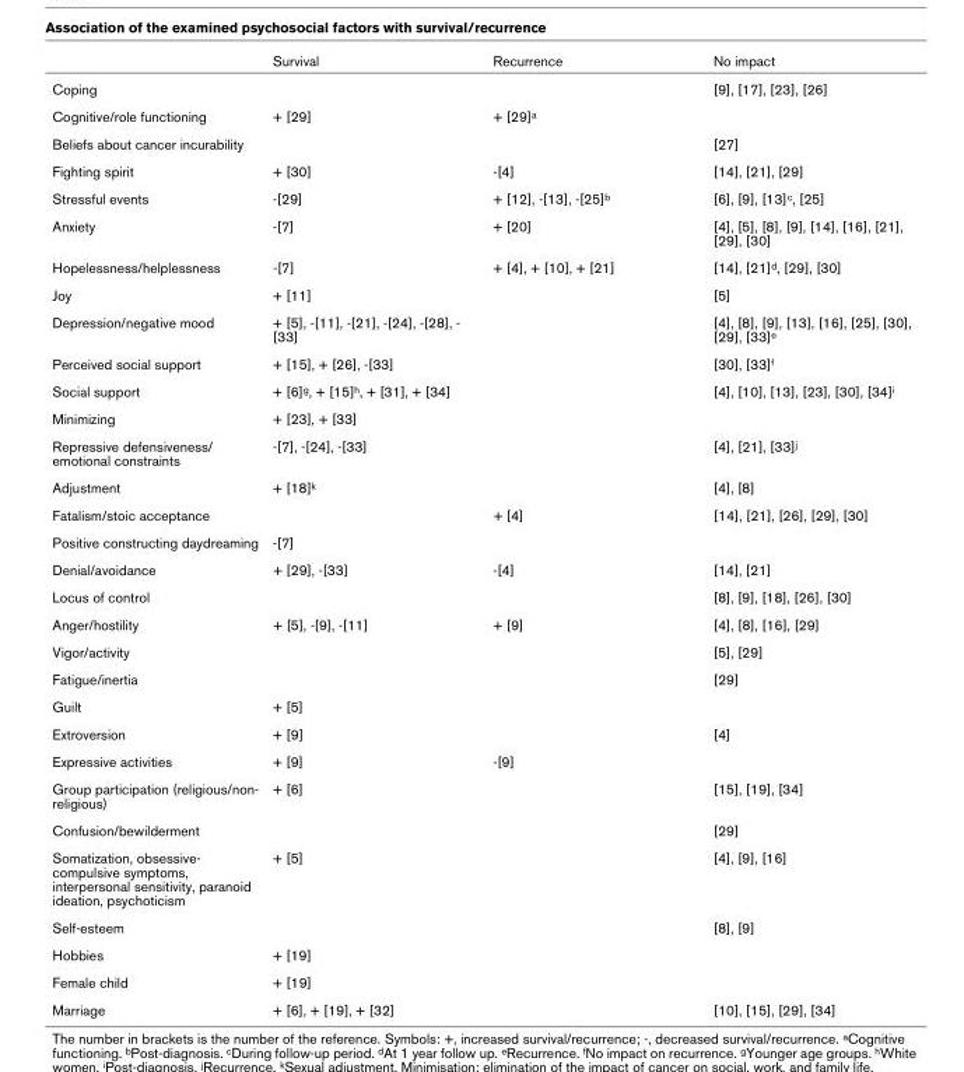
<table><thead><tr><td></td><td>Survival</td><td>Recurrence</td><td>No impact</td></tr></thead><tbody><tr><td>Coping</td><td></td><td></td><td>[9], [17], [23], [26]</td></tr><tr><td>Cognitive/role functioning</td><td>+ [29]</td><td>+ [29]<sup>a</sup></td><td></td></tr><tr><td>Beliefs about cancer incurability</td><td></td><td></td><td>[27]</td></tr><tr><td>Fighting spirit</td><td>+ [30]</td><td>-[4]</td><td>[14], [21], [29]</td></tr><tr><td>Stressful events</td><td>-[29]</td><td>+ [12], -[13], -[25]<sup>b</sup></td><td>[6], [9], [13]<sup>c</sup>, [25]</td></tr><tr><td>Anxiety</td><td>-[7]</td><td>+ [20]</td><td>[4], [5], [8], [9], [14], [16], [21], [29], [30]</td></tr><tr><td>Hopelessness/helplessness</td><td>-[7]</td><td>+ [4], + [10], + [21]</td><td>[14], [21]<sup>d</sup>, [29], [30]</td></tr><tr><td>Joy</td><td>+ [11]</td><td></td><td>[5]</td></tr><tr><td>Depression/negative mood</td><td>+ [5], -[11], -[21], -[24], -[28], - [33]</td><td></td><td>[4], [8], [9], [13], [16], [25], [30], [29], [33]<sup>e</sup></td></tr><tr><td>Perceived social support</td><td>+ [15], + [26], -[33]</td><td></td><td>[30], [33]<sup>f</sup></td></tr><tr><td>Social support</td><td>+ [6]<sup>g</sup>, + [15]<sup>h</sup>, + [31], + [34]</td><td></td><td>[4], [10], [13], [23], [30], [34]<sup>i</sup></td></tr><tr><td>Minimizing</td><td>+ [23], + [33]</td><td></td><td></td></tr><tr><td>Repressive defensiveness/ emotional constraints</td><td>-[7], -[24], -[33]</td><td></td><td>[4], [21], [33]<sup>j</sup></td></tr><tr><td>Adjustment</td><td>+ [18]<sup>k</sup></td><td></td><td>[4], [8]</td></tr><tr><td>Fatalism/stoic acceptance</td><td></td><td>+ [4]</td><td>[14], [21], [26], [29], [30]</td></tr><tr><td>Positive constructing daydreaming</td><td>-[7]</td><td></td><td></td></tr><tr><td>Denial/avoidance</td><td>+ [29], -[33]</td><td>-[4]</td><td>[14], [21]</td></tr><tr><td>Locus of control</td><td></td><td></td><td>[8], [9], [18], [26], [30]</td></tr><tr><td>Anger/hostility</td><td>+ [5], -[9], -[11]</td><td>+ [9]</td><td>[4], [8], [16], [29]</td></tr><tr><td>Vigor/activity</td><td></td><td></td><td>[5], [29]</td></tr><tr><td>Fatigue/inertia</td><td></td><td></td><td>[29]</td></tr><tr><td>Guilt</td><td>+ [5]</td><td></td><td></td></tr><tr><td>Extroversion</td><td>+ [9]</td><td></td><td>[4]</td></tr><tr><td>Expressive activities</td><td>+ [9]</td><td>-[9]</td><td></td></tr><tr><td>Group participation (religious/non- religious)</td><td>+ [6]</td><td></td><td>[15], [19], [34]</td></tr><tr><td>Confusion/bewilderment</td><td></td><td></td><td>[29]</td></tr><tr><td>Somatization, obsessive- compulsive symptoms, interpersonal sensitivity, paranoid ideation, psychoticism</td><td>+ [5]</td><td></td><td>[4], [9], [16]</td></tr><tr><td>Self-esteem</td><td></td><td></td><td>[8], [9]</td></tr><tr><td>Hobbies</td><td>+ [19]</td><td></td><td></td></tr><tr><td>Female child</td><td>+ [19]</td><td></td><td></td></tr><tr><td>Marriage</td><td>+ [6], + [19], + [32]</td><td></td><td>[10], [15], [29], [34]</td></tr></tbody></table>